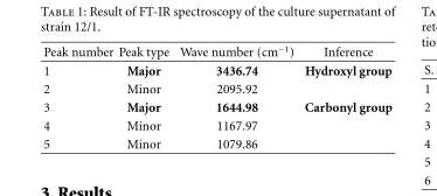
<table><thead><tr><td>Peak number</td><td>Peak type</td><td>Wave number (cm<sup>−1</sup>)</td><td>Inference</td></tr></thead><tbody><tr><td>1</td><td>Major</td><td>3436.74</td><td>Hydroxyl group</td></tr><tr><td>2</td><td>Minor</td><td>2095.92</td><td></td></tr><tr><td>3</td><td>Major</td><td>1644.98</td><td>Carbonyl group</td></tr><tr><td>4</td><td>Minor</td><td>1167.97</td><td></td></tr><tr><td>5</td><td>Minor</td><td>1079.86</td><td></td></tr></tbody></table>